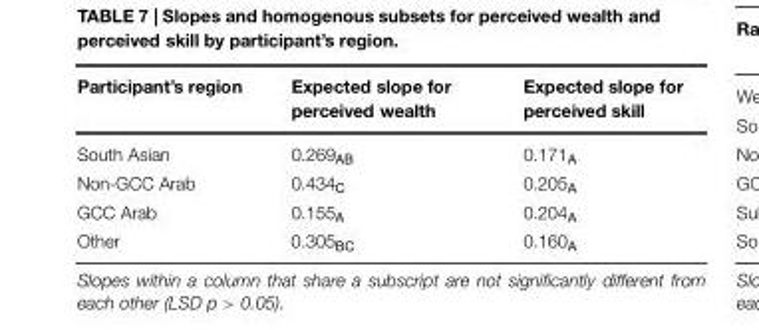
<table><thead><tr><td>Participant’s region</td><td>Expected slope for perceived wealth</td><td>Expected slope for perceived skill</td></tr></thead><tbody><tr><td>South Asian</td><td>0.269<sub>AB</sub></td><td>0.171<sub>A</sub></td></tr><tr><td>Non-GCC Arab</td><td>0.434<sub>C</sub></td><td>0.205<sub>A</sub></td></tr><tr><td>GCC Arab</td><td>0.155<sub>A</sub></td><td>0.204<sub>A</sub></td></tr><tr><td>Other</td><td>0.305<sub>BC</sub></td><td>0.160<sub>A</sub></td></tr></tbody></table>